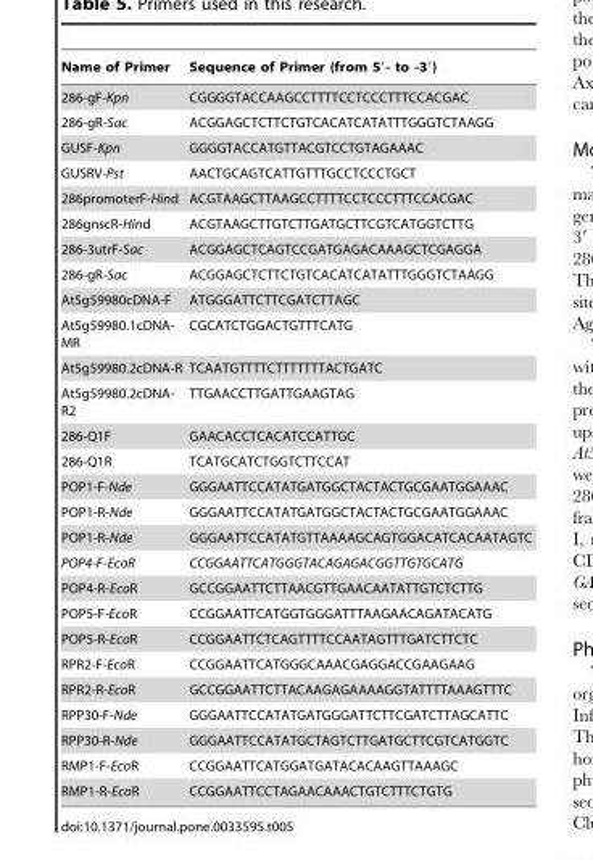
<table><thead><tr><td>Name of Primer</td><td>Sequence of Primer (from 5′- to -3′)</td></tr></thead><tbody><tr><td>286-gF-Kpn</td><td>CGGGGTACCAAGCCTTTTCCTCCCTTTCCACGAC</td></tr><tr><td>286-gR-Sac</td><td>ACGGAGCTCTTCTGTCACATCATATTTGGGTCTAAGG</td></tr><tr><td>GUSF-Kpn</td><td>GGGGTACCATGTTACGTCCTGTAGAAAC</td></tr><tr><td>GUSRV-Pst</td><td>AACTGCAGTCATTGTTTGCCTCCCTGCT</td></tr><tr><td>286promoterF-Hind</td><td>ACGTAAGCTTAAGCCTTTTCCTCCCTTTCCACGAC</td></tr><tr><td>286gnscR-Hind</td><td>ACGTAAGCTTGTCTTGATGCTTCGTCATGGTCTTG</td></tr><tr><td>286-3utrF-Sac</td><td>ACGGAGCTCAGTCCGATGAGACAAAGCTCGAGGA</td></tr><tr><td>286-gR-Sac</td><td>ACGGAGCTCTTCTGTCACATCATATTTGGGTCTAAGG</td></tr><tr><td>At5g59980cDNA-F</td><td>ATGGGATTCTTCGATCTTAGC</td></tr><tr><td>At5g59980.1cDNA- MR</td><td>CGCATCTGGACTGTTTCATG</td></tr><tr><td>At5g59980.2cDNA-R</td><td>TCAATGTTTTCTTTTTTTACTGATC</td></tr><tr><td>At5g59980.2cDNA- R2</td><td>TTGAACCTTGATTGAAGTAG</td></tr><tr><td>286-Q1F</td><td>GAACACCTCACATCCATTGC</td></tr><tr><td>286-Q1R</td><td>TCATGCATCTGGTCTTCCAT</td></tr><tr><td>POP1-F-Nde</td><td>GGGAATTCCATATGATGGCTACTACTGCGAATGGAAAC</td></tr><tr><td>POP1-R-Nde</td><td>GGGAATTCCATATGATGGCTACTACTGCGAATGGAAAC</td></tr><tr><td>POP1-R-Nde</td><td>GGGAATTCCATATGTTAAAAGCAGTGGACATCACAATAGTC</td></tr><tr><td>POP4-F-EcoR</td><td>CCGGAATTCATGGGTACAGAGACGGTTGTGCATG</td></tr><tr><td>POP4-R-EcoR</td><td>GCCGGAATTCTTAACGTTGAACAATATTGTCTCTTG</td></tr><tr><td>POP5-F-EcoR</td><td>CCGGAATTCATGGTGGGATTTAAGAACAGATACATG</td></tr><tr><td>POP5-R-EcoR</td><td>CCGGAATTCTCAGTTTTCCAATAGTTTGATCTTCTC</td></tr><tr><td>RPR2-F-EcoR</td><td>CCGGAATTCATGGGCAAACGAGGACCGAAGAAG</td></tr><tr><td>RPR2-R-EcoR</td><td>GCCGGAATTCTTACAAGAGAAAAGGTATTTTAAAGTTTC</td></tr><tr><td>RPP30-F-Nde</td><td>GGGAATTCCATATGATGGGATTCTTCGATCTTAGCATTC</td></tr><tr><td>RPP30-R-Nde</td><td>GGGAATTCCATATGCTAGTCTTGATGCTTCGTCATGGTC</td></tr><tr><td>RMP1-F-EcoR</td><td>CCGGAATTCATGGATGATACACAAGTTAAAGC</td></tr><tr><td>RMP1-R-EcoR</td><td>CCGGAATTCCTAGAACAAACTGTCTTTCTGTG</td></tr></tbody></table>